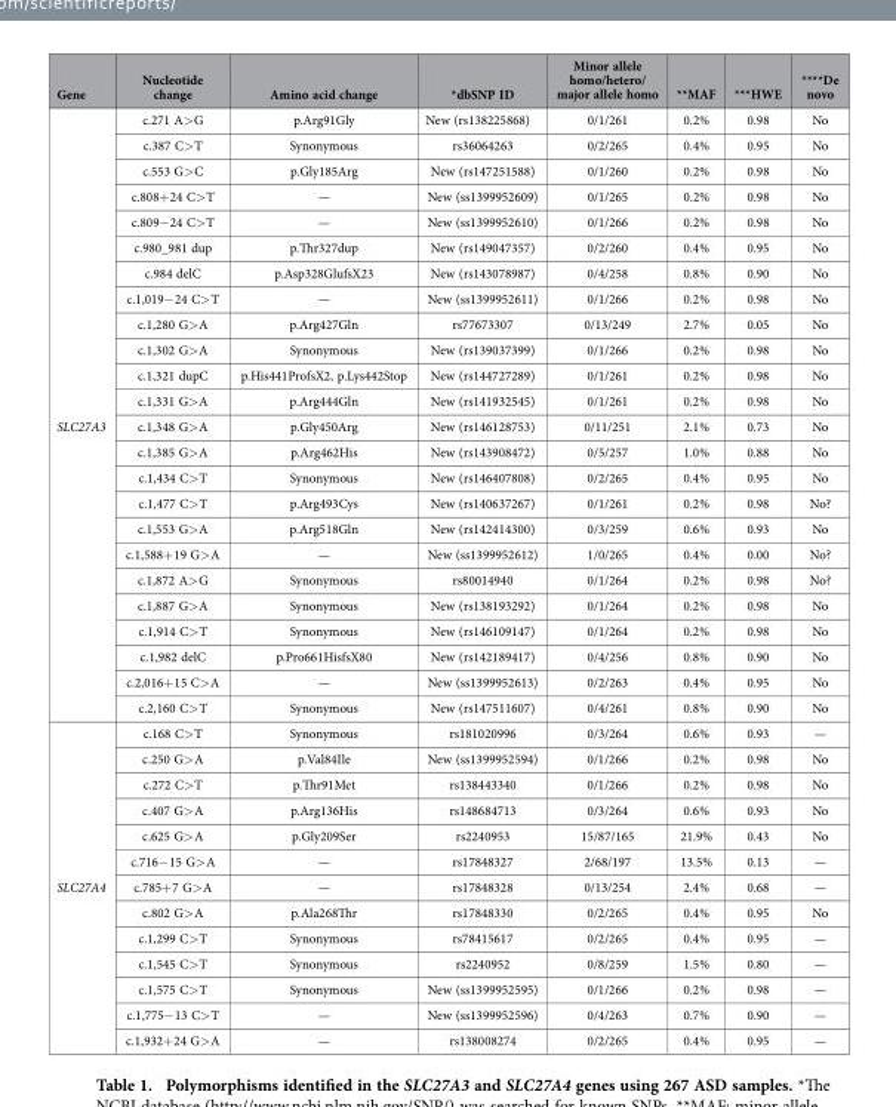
<table><thead><tr><td>Gene</td><td>Nucleotide change</td><td>Amino acid change</td><td>*dbSNP ID</td><td>Minor allele homo/hetero/ major allele homo</td><td>**MAF</td><td>***HWE</td><td>****De novo</td></tr></thead><tbody><tr><td rowspan="24">SLC27A3</td><td>c.271 A&gt; G</td><td>p.Arg91Gly</td><td>New (rs138225868)</td><td>0/1/261</td><td>0.2%</td><td>0.98</td><td>No</td></tr><tr><td>c.387 C&gt; T</td><td>Synonymous</td><td>rs36064263</td><td>0/2/265</td><td>0.4%</td><td>0.95</td><td>No</td></tr><tr><td>c.553 G&gt; C</td><td>p.Gly185Arg</td><td>New (rs147251588)</td><td>0/1/260</td><td>0.2%</td><td>0.98</td><td>No</td></tr><tr><td>c.808+ 24 C&gt; T</td><td>—</td><td>New (ss1399952609)</td><td>0/1/265</td><td>0.2%</td><td>0.98</td><td>No</td></tr><tr><td>c.809− 24 C&gt; T</td><td>—</td><td>New (ss1399952610)</td><td>0/1/266</td><td>0.2%</td><td>0.98</td><td>No</td></tr><tr><td>c.980_981 dup</td><td>p.Thr327dup</td><td>New (rs149047357)</td><td>0/2/260</td><td>0.4%</td><td>0.95</td><td>No</td></tr><tr><td>c.984 delC</td><td>p.Asp328GlufsX23</td><td>New (rs143078987)</td><td>0/4/258</td><td>0.8%</td><td>0.90</td><td>No</td></tr><tr><td>c.1,019− 24 C&gt; T</td><td>—</td><td>New (ss1399952611)</td><td>0/1/266</td><td>0.2%</td><td>0.98</td><td>No</td></tr><tr><td>c.1,280 G&gt; A</td><td>p.Arg427Gln</td><td>rs77673307</td><td>0/13/249</td><td>2.7%</td><td>0.05</td><td>No</td></tr><tr><td>c.1,302 G&gt; A</td><td>Synonymous</td><td>New (rs139037399)</td><td>0/1/266</td><td>0.2%</td><td>0.98</td><td>No</td></tr><tr><td>c.1,321 dupC</td><td>p.His441ProfsX2, p.Lys442Stop</td><td>New (rs144727289)</td><td>0/1/261</td><td>0.2%</td><td>0.98</td><td>No</td></tr><tr><td>c.1,331 G&gt; A</td><td>p.Arg444Gln</td><td>New (rs141932545)</td><td>0/1/261</td><td>0.2%</td><td>0.98</td><td>No</td></tr><tr><td>c.1,348 G&gt; A</td><td>p.Gly450Arg</td><td>New (rs146128753)</td><td>0/11/251</td><td>2.1%</td><td>0.73</td><td>No</td></tr><tr><td>c.1,385 G&gt; A</td><td>p.Arg462His</td><td>New (rs143908472)</td><td>0/5/257</td><td>1.0%</td><td>0.88</td><td>No</td></tr><tr><td>c.1,434 C&gt; T</td><td>Synonymous</td><td>New (rs146407808)</td><td>0/2/265</td><td>0.4%</td><td>0.95</td><td>No</td></tr><tr><td>c.1,477 C&gt; T</td><td>p.Arg493Cys</td><td>New (rs140637267)</td><td>0/1/261</td><td>0.2%</td><td>0.98</td><td>No?</td></tr><tr><td>c.1,553 G&gt; A</td><td>p.Arg518Gln</td><td>New (rs142414300)</td><td>0/3/259</td><td>0.6%</td><td>0.93</td><td>No</td></tr><tr><td>c.1,588+ 19 G&gt; A</td><td>—</td><td>New (ss1399952612)</td><td>1/0/265</td><td>0.4%</td><td>0.00</td><td>No?</td></tr><tr><td>c.1,872 A&gt; G</td><td>Synonymous</td><td>rs80014940</td><td>0/1/264</td><td>0.2%</td><td>0.98</td><td>No?</td></tr><tr><td>c.1,887 G&gt; A</td><td>Synonymous</td><td>New (rs138193292)</td><td>0/1/264</td><td>0.2%</td><td>0.98</td><td>No</td></tr><tr><td>c.1,914 C&gt; T</td><td>Synonymous</td><td>New (rs146109147)</td><td>0/1/264</td><td>0.2%</td><td>0.98</td><td>No</td></tr><tr><td>c.1,982 delC</td><td>p.Pro661HisfsX80</td><td>New (rs142189417)</td><td>0/4/256</td><td>0.8%</td><td>0.90</td><td>No</td></tr><tr><td>c.2,016+ 15 C&gt; A</td><td>—</td><td>New (ss1399952613)</td><td>0/2/263</td><td>0.4%</td><td>0.95</td><td>No</td></tr><tr><td>c.2,160 C&gt; T</td><td>Synonymous</td><td>New (rs147511607)</td><td>0/4/261</td><td>0.8%</td><td>0.90</td><td>No</td></tr><tr><td rowspan="13">SLC27A4</td><td>c.168 C&gt; T</td><td>Synonymous</td><td>rs181020996</td><td>0/3/264</td><td>0.6%</td><td>0.93</td><td>—</td></tr><tr><td>c.250 G&gt; A</td><td>p.Val84Ile</td><td>New (ss1399952594)</td><td>0/1/266</td><td>0.2%</td><td>0.98</td><td>No</td></tr><tr><td>c.272 C&gt; T</td><td>p.Thr91Met</td><td>rs138443340</td><td>0/1/266</td><td>0.2%</td><td>0.98</td><td>No</td></tr><tr><td>c.407 G&gt; A</td><td>p.Arg136His</td><td>rs148684713</td><td>0/3/264</td><td>0.6%</td><td>0.93</td><td>No</td></tr><tr><td>c.625 G&gt; A</td><td>p.Gly209Ser</td><td>rs2240953</td><td>15/87/165</td><td>21.9%</td><td>0.43</td><td>No</td></tr><tr><td>c.716− 15 G&gt; A</td><td>—</td><td>rs17848327</td><td>2/68/197</td><td>13.5%</td><td>0.13</td><td>—</td></tr><tr><td>c.785+ 7 G&gt; A</td><td>—</td><td>rs17848328</td><td>0/13/254</td><td>2.4%</td><td>0.68</td><td>—</td></tr><tr><td>c.802 G&gt; A</td><td>p.Ala268Thr</td><td>rs17848330</td><td>0/2/265</td><td>0.4%</td><td>0.95</td><td>No</td></tr><tr><td>c.1,299 C&gt; T</td><td>Synonymous</td><td>rs78415617</td><td>0/2/265</td><td>0.4%</td><td>0.95</td><td>—</td></tr><tr><td>c.1,545 C&gt; T</td><td>Synonymous</td><td>rs2240952</td><td>0/8/259</td><td>1.5%</td><td>0.80</td><td>—</td></tr><tr><td>c.1,575 C&gt; T</td><td>Synonymous</td><td>New (ss1399952595)</td><td>0/1/266</td><td>0.2%</td><td>0.98</td><td>—</td></tr><tr><td>c.1,775− 13 C&gt; T</td><td>—</td><td>New (ss1399952596)</td><td>0/4/263</td><td>0.7%</td><td>0.90</td><td>—</td></tr><tr><td>c.1,932+ 24 G&gt; A</td><td>—</td><td>rs138008274</td><td>0/2/265</td><td>0.4%</td><td>0.95</td><td>—</td></tr></tbody></table>